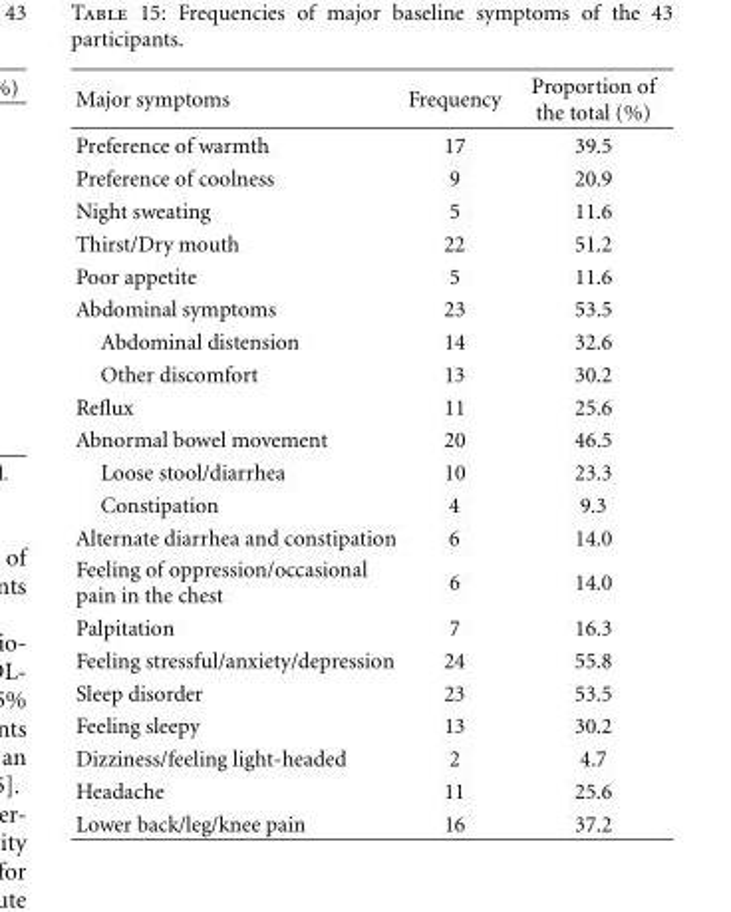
<table><thead><tr><td>Major symptoms</td><td>Frequency</td><td>Proportion of the total (%)</td></tr></thead><tbody><tr><td>Preference of warmth</td><td>17</td><td>39.5</td></tr><tr><td>Preference of coolness</td><td>9</td><td>20.9</td></tr><tr><td>Night sweating</td><td>5</td><td>11.6</td></tr><tr><td>Thirst/Dry mouth</td><td>22</td><td>51.2</td></tr><tr><td>Poor appetite</td><td>5</td><td>11.6</td></tr><tr><td>Abdominal symptoms</td><td>23</td><td>53.5</td></tr><tr><td>Abdominal distension</td><td>14</td><td>32.6</td></tr><tr><td>Other discomfort</td><td>13</td><td>30.2</td></tr><tr><td>Reflux</td><td>11</td><td>25.6</td></tr><tr><td>Abnormal bowel movement</td><td>20</td><td>46.5</td></tr><tr><td>Loose stool/diarrhea</td><td>10</td><td>23.3</td></tr><tr><td>Constipation</td><td>4</td><td>9.3</td></tr><tr><td>Alternate diarrhea and constipation</td><td>6</td><td>14.0</td></tr><tr><td>Feeling of oppression/occasional pain in the chest</td><td>6</td><td>14.0</td></tr><tr><td>Palpitation</td><td>7</td><td>16.3</td></tr><tr><td>Feeling stressful/anxiety/depression</td><td>24</td><td>55.8</td></tr><tr><td>Sleep disorder</td><td>23</td><td>53.5</td></tr><tr><td>Feeling sleepy</td><td>13</td><td>30.2</td></tr><tr><td>Dizziness/feeling light-headed</td><td>2</td><td>4.7</td></tr><tr><td>Headache</td><td>11</td><td>25.6</td></tr><tr><td>Lower back/leg/knee pain</td><td>16</td><td>37.2</td></tr></tbody></table>